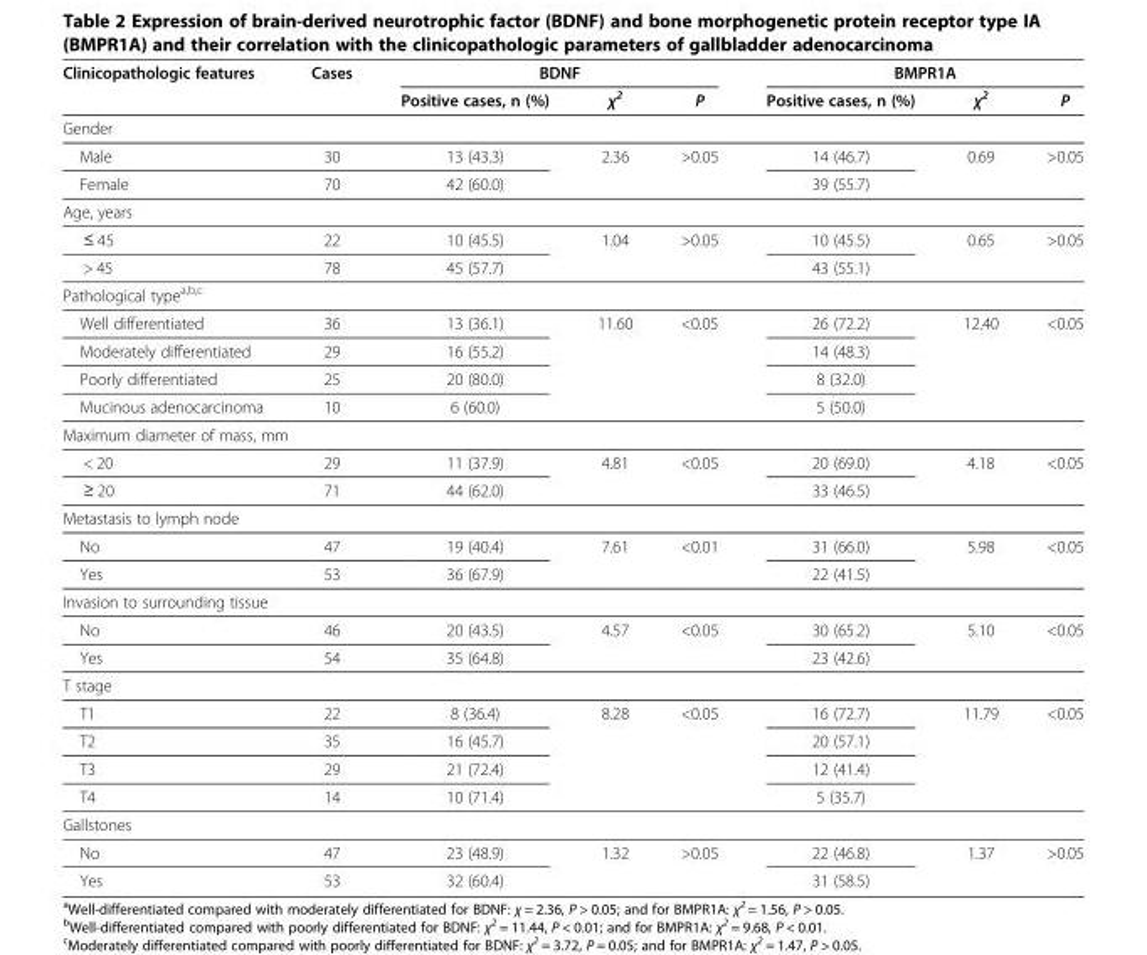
<table><thead><tr><td rowspan="2">Clinicopathologic features</td><td rowspan="2">Cases</td><td colspan="3">BDNF</td><td colspan="3">BMPR1A</td></tr><tr><td>Positive cases, n (%)</td><td>χ<sup>2</sup></td><td>P</td><td>Positive cases, n (%)</td><td>χ<sup>2</sup></td><td>P</td></tr></thead><tbody><tr><td colspan="8">Gender</td></tr><tr><td>Male</td><td>30</td><td>13 (43.3)</td><td rowspan="2">2.36</td><td rowspan="2">&gt;0.05</td><td>14 (46.7)</td><td rowspan="2">0.69</td><td rowspan="2">&gt;0.05</td></tr><tr><td>Female</td><td>70</td><td>42 (60.0)</td><td>39 (55.7)</td></tr><tr><td colspan="8">Age, years</td></tr><tr><td>≤ 45</td><td>22</td><td>10 (45.5)</td><td rowspan="2">1.04</td><td rowspan="2">&gt;0.05</td><td>10 (45.5)</td><td rowspan="2">0.65</td><td rowspan="2">&gt;0.05</td></tr><tr><td>&gt; 45</td><td>78</td><td>45 (57.7)</td><td>43 (55.1)</td></tr><tr><td colspan="8">Pathological type<sup>a,b,c</sup></td></tr><tr><td>Well differentiated</td><td>36</td><td>13 (36.1)</td><td rowspan="4">11.60</td><td rowspan="4">&lt;0.05</td><td>26 (72.2)</td><td rowspan="4">12.40</td><td rowspan="4">&lt;0.05</td></tr><tr><td>Moderately differentiated</td><td>29</td><td>16 (55.2)</td><td>14 (48.3)</td></tr><tr><td>Poorly differentiated</td><td>25</td><td>20 (80.0)</td><td>8 (32.0)</td></tr><tr><td>Mucinous adenocarcinoma</td><td>10</td><td>6 (60.0)</td><td>5 (50.0)</td></tr><tr><td colspan="8">Maximum diameter of mass, mm</td></tr><tr><td>&lt; 20</td><td>29</td><td>11 (37.9)</td><td rowspan="2">4.81</td><td rowspan="2">&lt;0.05</td><td>20 (69.0)</td><td rowspan="2">4.18</td><td rowspan="2">&lt;0.05</td></tr><tr><td>≥ 20</td><td>71</td><td>44 (62.0)</td><td>33 (46.5)</td></tr><tr><td colspan="8">Metastasis to lymph node</td></tr><tr><td>No</td><td>47</td><td>19 (40.4)</td><td rowspan="2">7.61</td><td rowspan="2">&lt;0.01</td><td>31 (66.0)</td><td rowspan="2">5.98</td><td rowspan="2">&lt;0.05</td></tr><tr><td>Yes</td><td>53</td><td>36 (67.9)</td><td>22 (41.5)</td></tr><tr><td colspan="8">Invasion to surrounding tissue</td></tr><tr><td>No</td><td>46</td><td>20 (43.5)</td><td rowspan="2">4.57</td><td rowspan="2">&lt;0.05</td><td>30 (65.2)</td><td rowspan="2">5.10</td><td rowspan="2">&lt;0.05</td></tr><tr><td>Yes</td><td>54</td><td>35 (64.8)</td><td>23 (42.6)</td></tr><tr><td colspan="8">T stage</td></tr><tr><td>T1</td><td>22</td><td>8 (36.4)</td><td rowspan="4">8.28</td><td rowspan="4">&lt;0.05</td><td>16 (72.7)</td><td rowspan="4">11.79</td><td rowspan="4">&lt;0.05</td></tr><tr><td>T2</td><td>35</td><td>16 (45.7)</td><td>20 (57.1)</td></tr><tr><td>T3</td><td>29</td><td>21 (72.4)</td><td>12 (41.4)</td></tr><tr><td>T4</td><td>14</td><td>10 (71.4)</td><td>5 (35.7)</td></tr><tr><td colspan="8">Gallstones</td></tr><tr><td>No</td><td>47</td><td>23 (48.9)</td><td rowspan="2">1.32</td><td rowspan="2">&gt;0.05</td><td>22 (46.8)</td><td rowspan="2">1.37</td><td rowspan="2">&gt;0.05</td></tr><tr><td>Yes</td><td>53</td><td>32 (60.4)</td><td>31 (58.5)</td></tr></tbody></table>